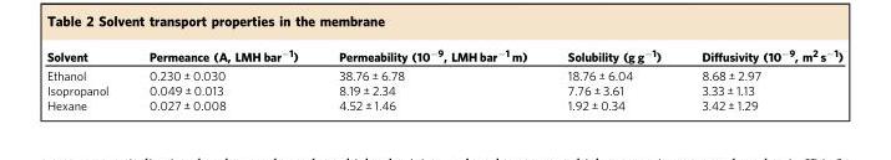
<table><thead><tr><td>Solvent</td><td>Permeance (A, LMH bar<sup>−1</sup>)</td><td>Permeability (10<sup>−9</sup>, LMH bar<sup>−1</sup> m)</td><td>Solubility (g g<sup>−1</sup>)</td><td>Diffusivity (10<sup>−9</sup>, m<sup>2</sup> s<sup>−1</sup>)</td></tr></thead><tbody><tr><td>Ethanol</td><td>0.230 ± 0.030</td><td>38.76 ± 6.78</td><td>18.76 ± 6.04</td><td>8.68 ± 2.97</td></tr><tr><td>Isopropanol</td><td>0.049 ± 0.013</td><td>8.19 ± 2.34</td><td>7.76 ± 3.61</td><td>3.33 ± 1.13</td></tr><tr><td>Hexane</td><td>0.027 ± 0.008</td><td>4.52 ± 1.46</td><td>1.92 ± 0.34</td><td>3.42 ± 1.29</td></tr></tbody></table>